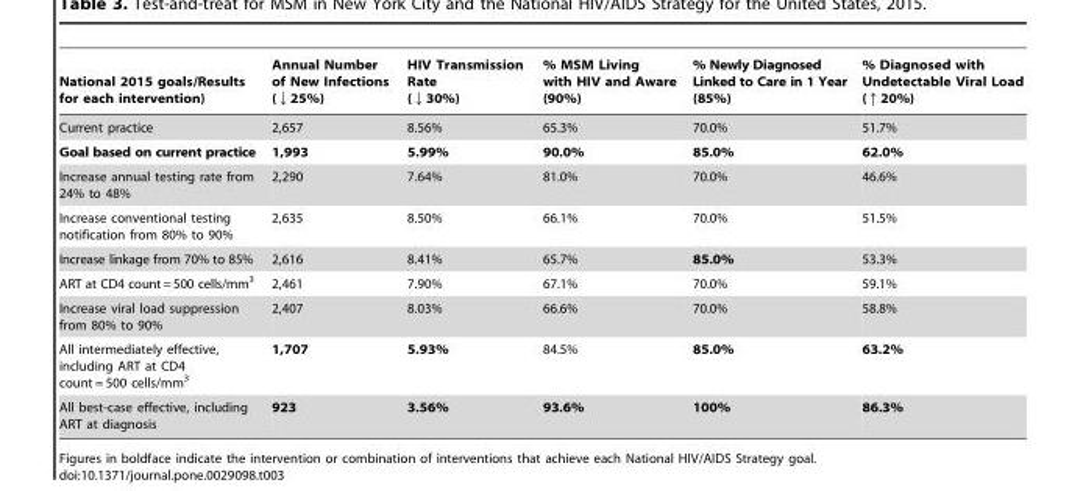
<table><thead><tr><td>National 2015 goals/Results for each intervention)</td><td>Annual Number of New Infections (↓25%)</td><td>HIV Transmission Rate (↓30%)</td><td>% MSM Living with HIV and Aware (90%)</td><td>% Newly Diagnosed Linked to Care in 1 Year (85%)</td><td>% Diagnosed with Undetectable Viral Load (↑20%)</td></tr></thead><tbody><tr><td>Current practice</td><td>2,657</td><td>8.56%</td><td>65.3%</td><td>70.0%</td><td>51.7%</td></tr><tr><td>Goal based on current practice</td><td>1,993</td><td>5.99%</td><td>90.0%</td><td>85.0%</td><td>62.0%</td></tr><tr><td>Increase annual testing rate from 24% to 48%</td><td>2,290</td><td>7.64%</td><td>81.0%</td><td>70.0%</td><td>46.6%</td></tr><tr><td>Increase conventional testing notification from 80% to 90%</td><td>2,635</td><td>8.50%</td><td>66.1%</td><td>70.0%</td><td>51.5%</td></tr><tr><td>Increase linkage from 70% to 85%</td><td>2,616</td><td>8.41%</td><td>65.7%</td><td>85.0%</td><td>53.3%</td></tr><tr><td>ART at CD4 count= 500 cells/mm<sup>3</sup></td><td>2,461</td><td>7.90%</td><td>67.1%</td><td>70.0%</td><td>59.1%</td></tr><tr><td>Increase viral load suppression from 80% to 90%</td><td>2,407</td><td>8.03%</td><td>66.6%</td><td>70.0%</td><td>58.8%</td></tr><tr><td>All intermediately effective, including ART at CD4 count = 500 cells/mm<sup>3</sup></td><td>1,707</td><td>5.93%</td><td>84.5%</td><td>85.0%</td><td>63.2%</td></tr><tr><td>All best-case effective, including ART at diagnosis</td><td>923</td><td>3.56%</td><td>93.6%</td><td>100%</td><td>86.3%</td></tr></tbody></table>